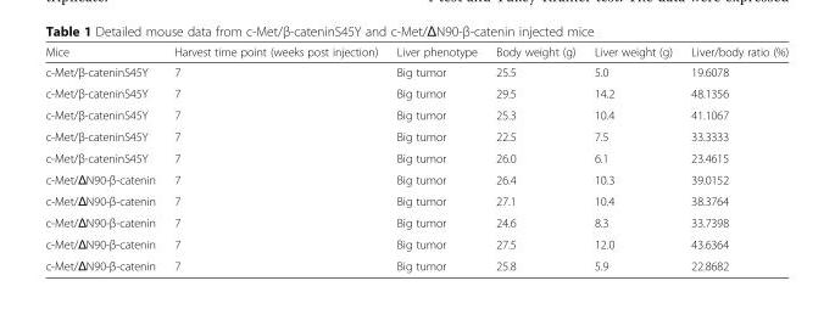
<table><thead><tr><td>Mice</td><td>Harvest time point (weeks post injection)</td><td>Liver phenotype</td><td>Body weight (g)</td><td>Liver weight (g)</td><td>Liver/body ratio (%)</td></tr></thead><tbody><tr><td>c-Met/β-cateninS45Y</td><td>7</td><td>Big tumor</td><td>25.5</td><td>5.0</td><td>19.6078</td></tr><tr><td>c-Met/β-cateninS45Y</td><td>7</td><td>Big tumor</td><td>29.5</td><td>14.2</td><td>48.1356</td></tr><tr><td>c-Met/β-cateninS45Y</td><td>7</td><td>Big tumor</td><td>25.3</td><td>10.4</td><td>41.1067</td></tr><tr><td>c-Met/β-cateninS45Y</td><td>7</td><td>Big tumor</td><td>22.5</td><td>7.5</td><td>33.3333</td></tr><tr><td>c-Met/β-cateninS45Y</td><td>7</td><td>Big tumor</td><td>26.0</td><td>6.1</td><td>23.4615</td></tr><tr><td>c-Met/ΔN90-β-catenin</td><td>7</td><td>Big tumor</td><td>26.4</td><td>10.3</td><td>39.0152</td></tr><tr><td>c-Met/ΔN90-β-catenin</td><td>7</td><td>Big tumor</td><td>27.1</td><td>10.4</td><td>38.3764</td></tr><tr><td>c-Met/ΔN90-β-catenin</td><td>7</td><td>Big tumor</td><td>24.6</td><td>8.3</td><td>33.7398</td></tr><tr><td>c-Met/ΔN90-β-catenin</td><td>7</td><td>Big tumor</td><td>27.5</td><td>12.0</td><td>43.6364</td></tr><tr><td>c-Met/ΔN90-β-catenin</td><td>7</td><td>Big tumor</td><td>25.8</td><td>5.9</td><td>22.8682</td></tr></tbody></table>